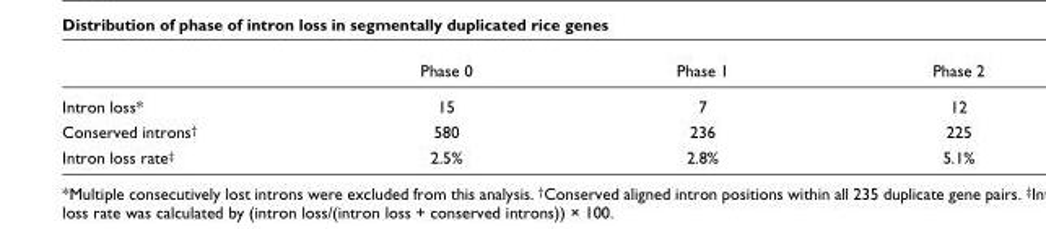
<table><thead><tr><td></td><td>Phase 0</td><td>Phase 1</td><td>Phase 2</td></tr></thead><tbody><tr><td>Intron loss*</td><td>15</td><td>7</td><td>12</td></tr><tr><td>Conserved introns†</td><td>580</td><td>236</td><td>225</td></tr><tr><td>Intron loss rate‡</td><td>2.5%</td><td>2.8%</td><td>5.1%</td></tr></tbody></table>